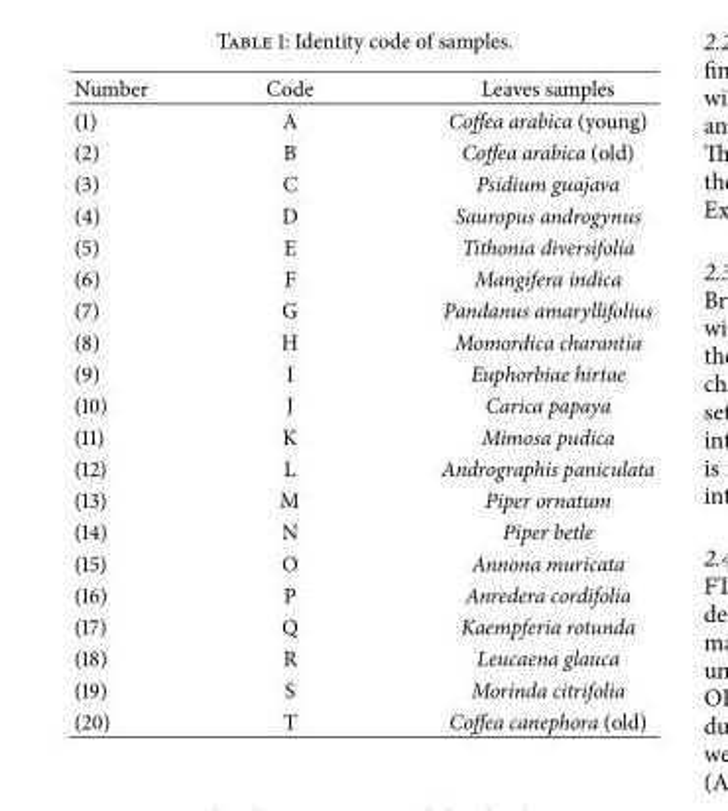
<table><thead><tr><td>Number</td><td>Code</td><td>Leaves samples</td></tr></thead><tbody><tr><td>(1)</td><td>A</td><td>Coffea arabica (young)</td></tr><tr><td>(2)</td><td>B</td><td>Coffea arabica (old)</td></tr><tr><td>(3)</td><td>C</td><td>Psidium guajava</td></tr><tr><td>(4)</td><td>D</td><td>Sauropus androgynus</td></tr><tr><td>(5)</td><td>E</td><td>Tithonia diversifolia</td></tr><tr><td>(6)</td><td>F</td><td>Mangifera indica</td></tr><tr><td>(7)</td><td>G</td><td>Pandanus amaryllifolius</td></tr><tr><td>(8)</td><td>H</td><td>Momordica charantia</td></tr><tr><td>(9)</td><td>I</td><td>Euphorbiae hirtae</td></tr><tr><td>(10)</td><td>J</td><td>Carica papaya</td></tr><tr><td>(11)</td><td>K</td><td>Mimosa pudica</td></tr><tr><td>(12)</td><td>L</td><td>Andrographis paniculata</td></tr><tr><td>(13)</td><td>M</td><td>Piper ornatum</td></tr><tr><td>(14)</td><td>N</td><td>Piper betle</td></tr><tr><td>(15)</td><td>O</td><td>Annona muricata</td></tr><tr><td>(16)</td><td>P</td><td>Anredera cordifolia</td></tr><tr><td>(17)</td><td>Q</td><td>Kaempferia rotunda</td></tr><tr><td>(18)</td><td>R</td><td>Leucaena glauca</td></tr><tr><td>(19)</td><td>S</td><td>Morinda citrifolia</td></tr><tr><td>(20)</td><td>T</td><td>Coffea canephora (old)</td></tr></tbody></table>